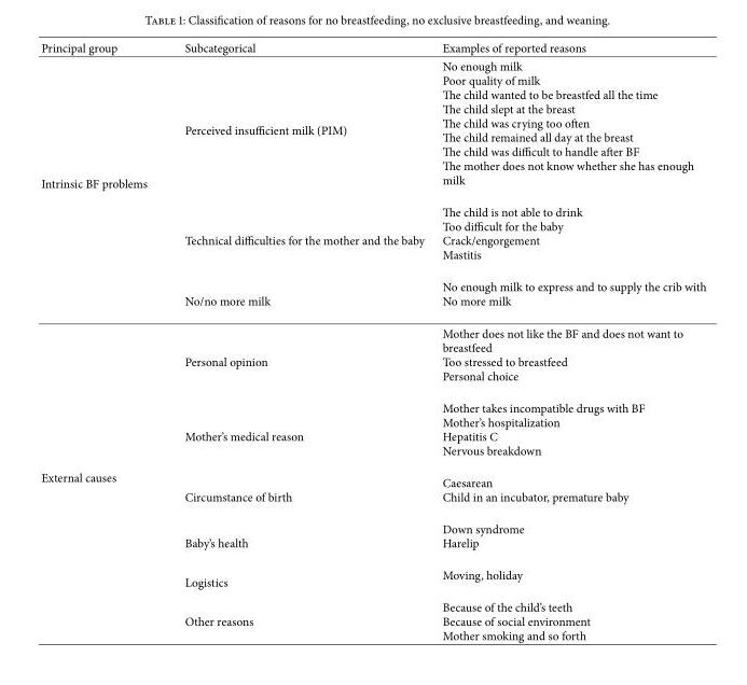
<table><thead><tr><td>Principal group</td><td>Subcategorical</td><td>Examples of reported reasons</td></tr></thead><tbody><tr><td rowspan="3">Intrinsic BF problems</td><td>Perceived insufficient milk (PIM)</td><td>No enough milk Poor quality of milk The child wanted to be breastfed all the time The child slept at the breast The child was crying too often The child remained all day at the breast The child was difficult to handle after BF The mother does not know whether she has enough milk</td></tr><tr><td>Technical difficulties for the mother and the baby</td><td>The child is not able to drink Too difficult for the baby Crack/engorgement Mastitis</td></tr><tr><td>No/no more milk</td><td>No enough milk to express and to supply the crib with No more milk</td></tr><tr><td rowspan="6">External causes</td><td>Personal opinion</td><td>Mother does not like the BF and does not want to breastfeed Too stressed to breastfeed Personal choice</td></tr><tr><td>Mother’s medical reason</td><td>Mother takes incompatible drugs with BF Mother’s hospitalization Hepatitis C Nervous breakdown</td></tr><tr><td>Circumstance of birth</td><td>Caesarean Child in an incubator, premature baby</td></tr><tr><td>Baby’s health</td><td>Down syndrome Harelip</td></tr><tr><td>Logistics</td><td>Moving, holiday</td></tr><tr><td>Other reasons</td><td>Because of the child’s teeth Because of social environment Mother smoking and so forth</td></tr></tbody></table>